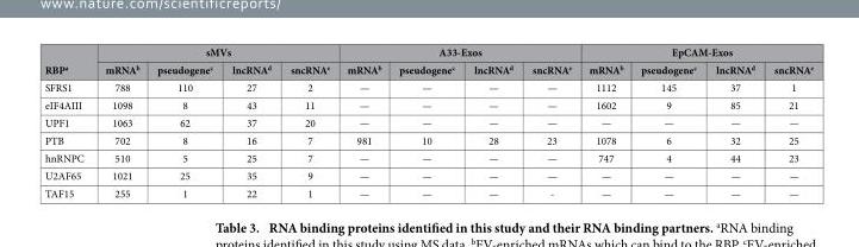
<table><thead><tr><td rowspan="2">RBP<sup>a</sup></td><td colspan="4">sMVs</td><td colspan="4">A33-Exos</td><td colspan="4">EpCAM-Exos</td></tr><tr><td>mRNA<sup>b</sup></td><td>pseudogene<sup>c</sup></td><td>lncRNA<sup>d</sup></td><td>sncRNA<sup>e</sup></td><td>mRNA<sup>b</sup></td><td>pseudogene<sup>c</sup></td><td>lncRNA<sup>d</sup></td><td>sncRNA<sup>e</sup></td><td>mRNA<sup>b</sup></td><td>pseudogene<sup>c</sup></td><td>lncRNA<sup>d</sup></td><td>sncRNA<sup>e</sup></td></tr></thead><tbody><tr><td>SFRS1</td><td>788</td><td>110</td><td>27</td><td>2</td><td>—</td><td>—</td><td>—</td><td>—</td><td>1112</td><td>145</td><td>37</td><td>1</td></tr><tr><td>eIF4AIII</td><td>1098</td><td>8</td><td>43</td><td>11</td><td>—</td><td>—</td><td>—</td><td>—</td><td>1602</td><td>9</td><td>85</td><td>21</td></tr><tr><td>UPF1</td><td>1063</td><td>62</td><td>37</td><td>20</td><td>—</td><td>—</td><td>—</td><td>—</td><td>—</td><td>—</td><td>—</td><td>—</td></tr><tr><td>PTB</td><td>702</td><td>8</td><td>16</td><td>7</td><td>981</td><td>10</td><td>28</td><td>23</td><td>1078</td><td>6</td><td>32</td><td>25</td></tr><tr><td>hnRNPC</td><td>510</td><td>5</td><td>25</td><td>7</td><td>—</td><td>—</td><td>—</td><td>—</td><td>747</td><td>4</td><td>44</td><td>23</td></tr><tr><td>U2AF65</td><td>1021</td><td>25</td><td>35</td><td>9</td><td>—</td><td>—</td><td>—</td><td>—</td><td>—</td><td>—</td><td>—</td><td>—</td></tr><tr><td>TAF15</td><td>255</td><td>1</td><td>22</td><td>1</td><td>—</td><td>—</td><td>—</td><td>-</td><td>—</td><td>—</td><td>—</td><td>—</td></tr></tbody></table>